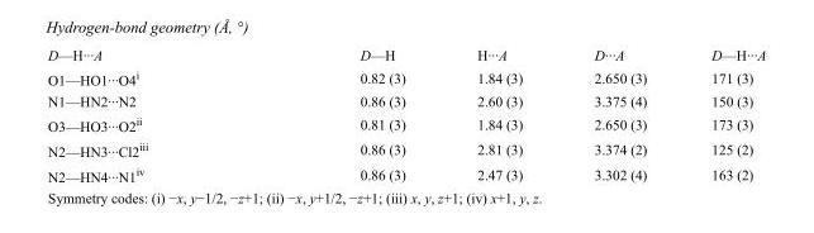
<table><tbody><tr><td>D—H···A</td><td>D—H</td><td>H···A</td><td>D···A</td><td>D—H···A</td></tr><tr><td>O1—HO1···O4<sup>i</sup></td><td>0.82 (3)</td><td>1.84 (3)</td><td>2.650 (3)</td><td>171 (3)</td></tr><tr><td>N1—HN2···N2</td><td>0.86 (3)</td><td>2.60 (3)</td><td>3.375 (4)</td><td>150 (3)</td></tr><tr><td>O3—HO3···O2<sup>ii</sup></td><td>0.81 (3)</td><td>1.84 (3)</td><td>2.650 (3)</td><td>173 (3)</td></tr><tr><td>N2—HN3···Cl2<sup>iii</sup></td><td>0.86 (3)</td><td>2.81 (3)</td><td>3.374 (2)</td><td>125 (2)</td></tr><tr><td>N2—HN4···N1<sup>iv</sup></td><td>0.86 (3)</td><td>2.47 (3)</td><td>3.302 (4)</td><td>163 (2)</td></tr></tbody></table>